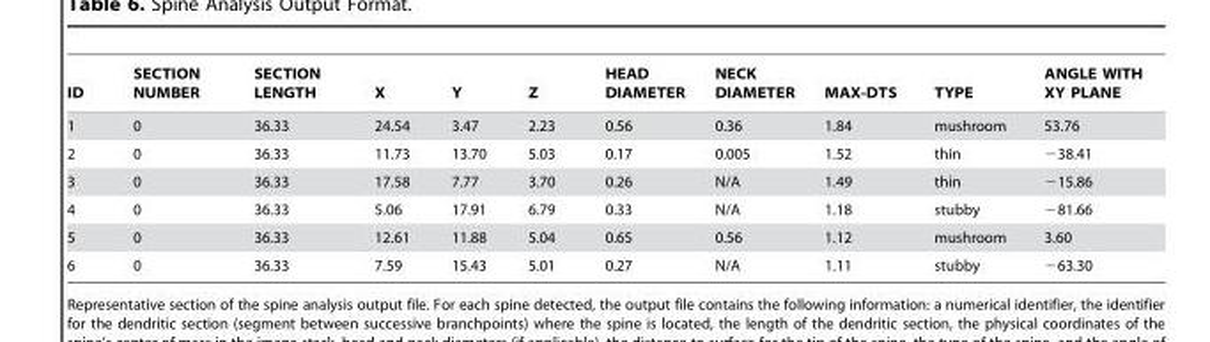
<table><thead><tr><td>ID</td><td>SECTION NUMBER</td><td>SECTION LENGTH</td><td>X</td><td>Y</td><td>Z</td><td>HEAD DIAMETER</td><td>NECK DIAMETER</td><td>MAX-DTS</td><td>TYPE</td><td>ANGLE WITH XY PLANE</td></tr></thead><tbody><tr><td>1</td><td>0</td><td>36.33</td><td>24.54</td><td>3.47</td><td>2.23</td><td>0.56</td><td>0.36</td><td>1.84</td><td>mushroom</td><td>53.76</td></tr><tr><td>2</td><td>0</td><td>36.33</td><td>11.73</td><td>13.70</td><td>5.03</td><td>0.17</td><td>0.005</td><td>1.52</td><td>thin</td><td>−38.41</td></tr><tr><td>3</td><td>0</td><td>36.33</td><td>17.58</td><td>7.77</td><td>3.70</td><td>0.26</td><td>N/A</td><td>1.49</td><td>thin</td><td>−15.86</td></tr><tr><td>4</td><td>0</td><td>36.33</td><td>5.06</td><td>17.91</td><td>6.79</td><td>0.33</td><td>N/A</td><td>1.18</td><td>stubby</td><td>−81.66</td></tr><tr><td>5</td><td>0</td><td>36.33</td><td>12.61</td><td>11.88</td><td>5.04</td><td>0.65</td><td>0.56</td><td>1.12</td><td>mushroom</td><td>3.60</td></tr><tr><td>6</td><td>0</td><td>36.33</td><td>7.59</td><td>15.43</td><td>5.01</td><td>0.27</td><td>N/A</td><td>1.11</td><td>stubby</td><td>−63.30</td></tr></tbody></table>